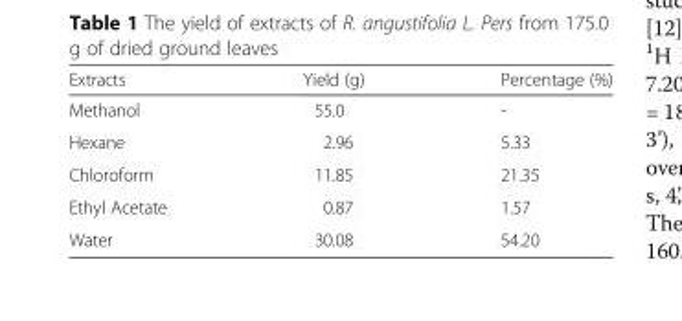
<table><thead><tr><td>Extracts</td><td>Yield (g)</td><td>Percentage (%)</td></tr></thead><tbody><tr><td>Methanol</td><td>55.0</td><td>-</td></tr><tr><td>Hexane</td><td>2.96</td><td>5.33</td></tr><tr><td>Chloroform</td><td>11.85</td><td>21.35</td></tr><tr><td>Ethyl Acetate</td><td>0.87</td><td>1.57</td></tr><tr><td>Water</td><td>30.08</td><td>54.20</td></tr></tbody></table>